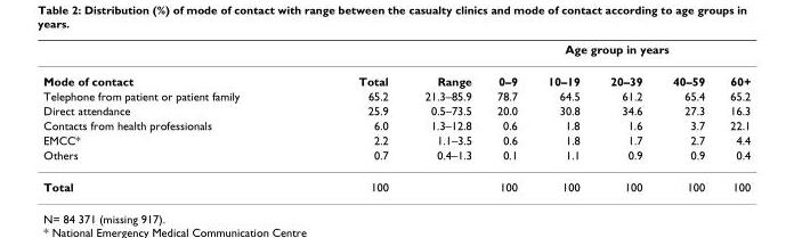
<table><thead><tr><td rowspan="2">Mode of contact</td><td rowspan="2">Total</td><td rowspan="2">Range</td><td colspan="5">Age group in years</td></tr><tr><td>0–9</td><td>10–19</td><td>20–39</td><td>40–59</td><td>60+</td></tr></thead><tbody><tr><td>Telephone from patient or patient family</td><td>65.2</td><td>21.3–85.9</td><td>78.7</td><td>64.5</td><td>61.2</td><td>65.4</td><td>65.2</td></tr><tr><td>Direct attendance</td><td>25.9</td><td>0.5–73.5</td><td>20.0</td><td>30.8</td><td>34.6</td><td>27.3</td><td>16.3</td></tr><tr><td>Contacts from health professionals</td><td>6.0</td><td>1.3–12.8</td><td>0.6</td><td>1.8</td><td>1.6</td><td>3.7</td><td>22.1</td></tr><tr><td>EMCC*</td><td>2.2</td><td>1.1–3.5</td><td>0.6</td><td>1.8</td><td>1.7</td><td>2.7</td><td>4.4</td></tr><tr><td>Others</td><td>0.7</td><td>0.4–1.3</td><td>0.1</td><td>1.1</td><td>0.9</td><td>0.9</td><td>0.4</td></tr><tr><td>Total</td><td>100</td><td></td><td>100</td><td>100</td><td>100</td><td>100</td><td>100</td></tr></tbody></table>